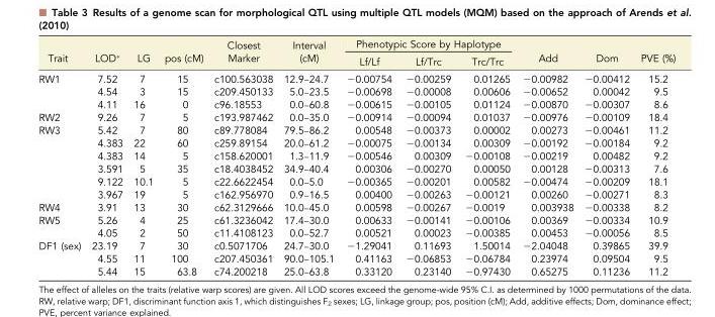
<table><thead><tr><td rowspan="2">Trait</td><td rowspan="2">LOD*</td><td rowspan="2">LG</td><td rowspan="2">pos (cM)</td><td rowspan="2">Closest Marker</td><td rowspan="2">Interval (cM)</td><td colspan="3">Phenotypic Score by Haplotype</td><td rowspan="2">Add</td><td rowspan="2">Dom</td><td rowspan="2">PVE (%)</td></tr><tr><td>Lf/Lf</td><td>Lf/Trc</td><td>Trc/Trc</td></tr></thead><tbody><tr><td rowspan="3">RW1</td><td>7.52</td><td>7</td><td>15</td><td>c100.563038</td><td>12.9–24.7</td><td>−0.00754</td><td>−0.00259</td><td>0.01265</td><td>−0.00982</td><td>−0.00412</td><td>15.2</td></tr><tr><td>4.54</td><td>3</td><td>15</td><td>c209.450133</td><td>5.0–23.5</td><td>−0.00698</td><td>−0.00008</td><td>0.00606</td><td>−0.00652</td><td>0.00042</td><td>9.5</td></tr><tr><td>4.11</td><td>16</td><td>0</td><td>c96.18553</td><td>0.0–60.8</td><td>−0.00615</td><td>−0.00105</td><td>0.01124</td><td>−0.00870</td><td>−0.00307</td><td>8.6</td></tr><tr><td>RW2</td><td>9.26</td><td>7</td><td>5</td><td>c193.987462</td><td>0.0–35.0</td><td>−0.00914</td><td>−0.00094</td><td>0.01037</td><td>−0.00976</td><td>−0.00109</td><td>18.4</td></tr><tr><td rowspan="6">RW3</td><td>5.42</td><td>7</td><td>80</td><td>c89.778084</td><td>79.5–86.2</td><td>0.00548</td><td>−0.00373</td><td>0.00002</td><td>0.00273</td><td>−0.00461</td><td>11.2</td></tr><tr><td>4.383</td><td>22</td><td>60</td><td>c259.89154</td><td>20.0–61.2</td><td>−0.00075</td><td>−0.00134</td><td>0.00309</td><td>−0.00192</td><td>−0.00184</td><td>9.2</td></tr><tr><td>4.383</td><td>14</td><td>5</td><td>c158.620001</td><td>1.3–11.9</td><td>−0.00546</td><td>0.00309</td><td>−0.00108</td><td>−0.00219</td><td>0.00482</td><td>9.2</td></tr><tr><td>3.591</td><td>5</td><td>35</td><td>c18.4038452</td><td>34.9–40.4</td><td>0.00306</td><td>−0.00270</td><td>0.00050</td><td>0.00128</td><td>−0.00313</td><td>7.6</td></tr><tr><td>9.122</td><td>10.1</td><td>5</td><td>c22.6622454</td><td>0.0–5.0</td><td>−0.00365</td><td>−0.00201</td><td>0.00582</td><td>−0.00474</td><td>−0.00209</td><td>18.1</td></tr><tr><td>3.967</td><td>19</td><td>5</td><td>c162.956970</td><td>0.9–16.5</td><td>0.00400</td><td>−0.00263</td><td>−0.00121</td><td>0.00260</td><td>−0.00271</td><td>8.3</td></tr><tr><td>RW4</td><td>3.91</td><td>13</td><td>30</td><td>c62.3129666</td><td>10.0–45.0</td><td>0.00598</td><td>−0.00267</td><td>−0.0019</td><td>0.003938</td><td>−0.00338</td><td>8.2</td></tr><tr><td rowspan="2">RW5</td><td>5.26</td><td>4</td><td>25</td><td>c61.3236042</td><td>17.4–30.0</td><td>0.00633</td><td>−0.00141</td><td>−0.00106</td><td>0.00369</td><td>−0.00334</td><td>10.9</td></tr><tr><td>4.05</td><td>2</td><td>50</td><td>c11.4108123</td><td>0.0–52.7</td><td>0.00521</td><td>0.00023</td><td>−0.00385</td><td>0.00453</td><td>−0.00056</td><td>8.5</td></tr><tr><td rowspan="3">DF1 (sex)</td><td>23.19</td><td>7</td><td>30</td><td>c0.5071706</td><td>24.7–30.0</td><td>−1.29041</td><td>0.11693</td><td>1.50014</td><td>−2.04048</td><td>0.39865</td><td>39.9</td></tr><tr><td>4.55</td><td>11</td><td>100</td><td>c207.450361</td><td>90.0–105.1</td><td>0.41163</td><td>−0.06853</td><td>−0.06784</td><td>0.23974</td><td>0.09504</td><td>9.5</td></tr><tr><td>5.44</td><td>15</td><td>63.8</td><td>c74.200218</td><td>25.0–63.8</td><td>0.33120</td><td>0.23140</td><td>−0.97430</td><td>0.65275</td><td>0.11236</td><td>11.2</td></tr></tbody></table>